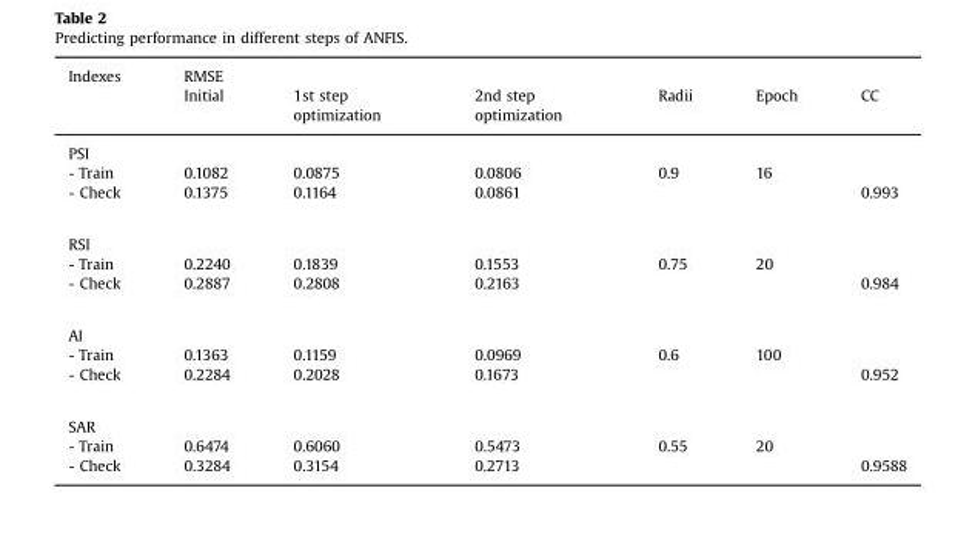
<table><thead><tr><td rowspan="2">Indexes</td><td rowspan="2">RMSE Initial</td><td rowspan="2">1st step optimization</td><td rowspan="2">2nd step optimization</td><td rowspan="2">Radii</td><td rowspan="2">Epoch</td><td rowspan="2">CC</td></tr><tr></tr></thead><tbody><tr><td colspan="7">PSI</td></tr><tr><td>- Train</td><td>0.1082</td><td>0.0875</td><td>0.0806</td><td>0.9</td><td>16</td><td></td></tr><tr><td>- Check</td><td>0.1375</td><td>0.1164</td><td>0.0861</td><td></td><td></td><td>0.993</td></tr><tr><td colspan="7">RSI</td></tr><tr><td>- Train</td><td>0.2240</td><td>0.1839</td><td>0.1553</td><td>0.75</td><td>20</td><td></td></tr><tr><td>- Check</td><td>0.2887</td><td>0.2808</td><td>0.2163</td><td></td><td></td><td>0.984</td></tr><tr><td colspan="7">AI</td></tr><tr><td>- Train</td><td>0.1363</td><td>0.1159</td><td>0.0969</td><td>0.6</td><td>100</td><td></td></tr><tr><td>- Check</td><td>0.2284</td><td>0.2028</td><td>0.1673</td><td></td><td></td><td>0.952</td></tr><tr><td colspan="7">SAR</td></tr><tr><td>- Train</td><td>0.6474</td><td>0.6060</td><td>0.5473</td><td>0.55</td><td>20</td><td></td></tr><tr><td>- Check</td><td>0.3284</td><td>0.3154</td><td>0.2713</td><td></td><td></td><td>0.9588</td></tr></tbody></table>